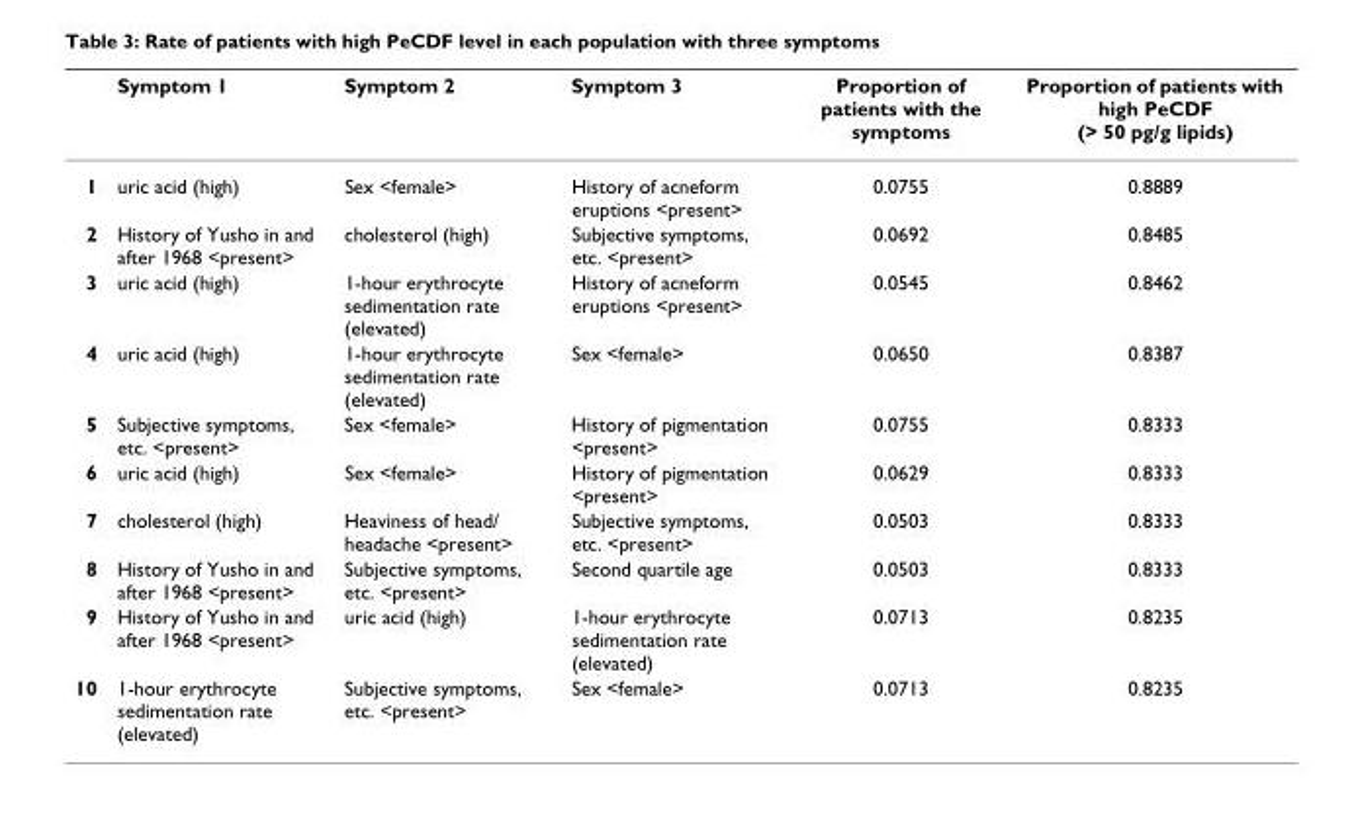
<table><thead><tr><td></td><td>Symptom 1</td><td>Symptom 2</td><td>Symptom 3</td><td>Proportion of patients with the symptoms</td><td>Proportion of patients with high PeCDF (&gt; 50 pg/g lipids)</td></tr></thead><tbody><tr><td>1</td><td>uric acid (high)</td><td>Sex &lt;female&gt;</td><td>History of acneform eruptions &lt;present&gt;</td><td>0.0755</td><td>0.8889</td></tr><tr><td>2</td><td>History of Yusho in and after 1968 &lt;present&gt;</td><td>cholesterol (high)</td><td>Subjective symptoms, etc. &lt;present&gt;</td><td>0.0692</td><td>0.8485</td></tr><tr><td>3</td><td>uric acid (high)</td><td>1-hour erythrocyte sedimentation rate (elevated)</td><td>History of acneform eruptions &lt;present&gt;</td><td>0.0545</td><td>0.8462</td></tr><tr><td>4</td><td>uric acid (high)</td><td>1-hour erythrocyte sedimentation rate (elevated)</td><td>Sex &lt;female&gt;</td><td>0.0650</td><td>0.8387</td></tr><tr><td>5</td><td>Subjective symptoms, etc. &lt;present&gt;</td><td>Sex &lt;female&gt;</td><td>History of pigmentation &lt;present&gt;</td><td>0.0755</td><td>0.8333</td></tr><tr><td>6</td><td>uric acid (high)</td><td>Sex &lt;female&gt;</td><td>History of pigmentation &lt;present&gt;</td><td>0.0629</td><td>0.8333</td></tr><tr><td>7</td><td>cholesterol (high)</td><td>Heaviness of head/ headache &lt;present&gt;</td><td>Subjective symptoms, etc. &lt;present&gt;</td><td>0.0503</td><td>0.8333</td></tr><tr><td>8</td><td>History of Yusho in and after 1968 &lt;present&gt;</td><td>Subjective symptoms, etc. &lt;present&gt;</td><td>Second quartile age</td><td>0.0503</td><td>0.8333</td></tr><tr><td>9</td><td>History of Yusho in and after 1968 &lt;present&gt;</td><td>uric acid (high)</td><td>1-hour erythrocyte sedimentation rate (elevated)</td><td>0.0713</td><td>0.8235</td></tr><tr><td>10</td><td>1-hour erythrocyte sedimentation rate (elevated)</td><td>Subjective symptoms, etc. &lt;present&gt;</td><td>Sex &lt;female&gt;</td><td>0.0713</td><td>0.8235</td></tr></tbody></table>